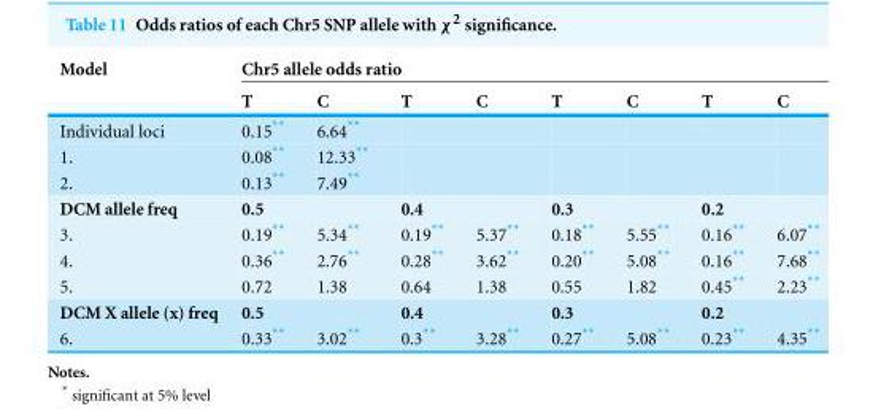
<table><thead><tr><td rowspan="2">Model</td><td colspan="8">Chr5 allele odds ratio</td></tr><tr><td>T</td><td>C</td><td>T</td><td>C</td><td>T</td><td>C</td><td>T</td><td>C</td></tr></thead><tbody><tr><td>Individual loci</td><td>0.15**</td><td>6.64**</td><td></td><td></td><td></td><td></td><td></td><td></td></tr><tr><td>1.</td><td>0.08**</td><td>12.33**</td><td></td><td></td><td></td><td></td><td></td><td></td></tr><tr><td>2.</td><td>0.13**</td><td>7.49**</td><td></td><td></td><td></td><td></td><td></td><td></td></tr><tr><td>DCM allele freq</td><td colspan="2">0.5</td><td colspan="2">0.4</td><td colspan="2">0.3</td><td colspan="2">0.2</td></tr><tr><td>3.</td><td>0.19**</td><td>5.34**</td><td>0.19**</td><td>5.37**</td><td>0.18**</td><td>5.55**</td><td>0.16**</td><td>6.07**</td></tr><tr><td>4.</td><td>0.36**</td><td>2.76**</td><td>0.28**</td><td>3.62**</td><td>0.20**</td><td>5.08**</td><td>0.16**</td><td>7.68**</td></tr><tr><td>5.</td><td>0.72</td><td>1.38</td><td>0.64</td><td>1.38</td><td>0.55</td><td>1.82</td><td>0.45**</td><td>2.23**</td></tr><tr><td>DCM X allele (x) freq</td><td colspan="2">0.5</td><td colspan="2">0.4</td><td colspan="2">0.3</td><td colspan="2">0.2</td></tr><tr><td>6.</td><td>0.33**</td><td>3.02**</td><td>0.3**</td><td>3.28**</td><td>0.27**</td><td>5.08**</td><td>0.23**</td><td>4.35**</td></tr></tbody></table>